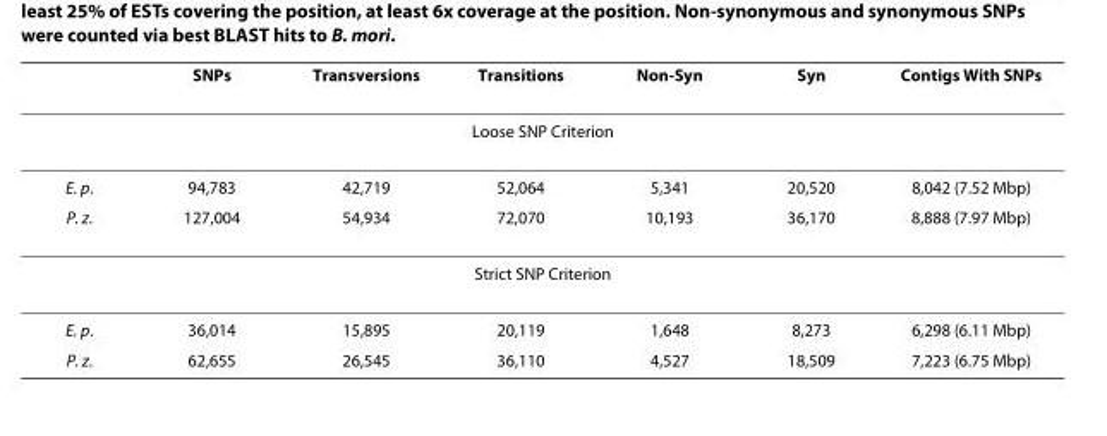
<table><thead><tr><td></td><td>SNPs</td><td>Transversions</td><td>Transitions</td><td>Non-Syn</td><td>Syn</td><td>Contigs With SNPs</td></tr></thead><tbody><tr><td colspan="7">Loose SNP Criterion</td></tr><tr><td>E. p.</td><td>94,783</td><td>42,719</td><td>52,064</td><td>5,341</td><td>20,520</td><td>8,042 (7.52 Mbp)</td></tr><tr><td>P. z.</td><td>127,004</td><td>54,934</td><td>72,070</td><td>10,193</td><td>36,170</td><td>8,888 (7.97 Mbp)</td></tr><tr><td colspan="7">Strict SNP Criterion</td></tr><tr><td>E. p.</td><td>36,014</td><td>15,895</td><td>20,119</td><td>1,648</td><td>8,273</td><td>6,298 (6.11 Mbp)</td></tr><tr><td>P. z.</td><td>62,655</td><td>26,545</td><td>36,110</td><td>4,527</td><td>18,509</td><td>7,223 (6.75 Mbp)</td></tr></tbody></table>